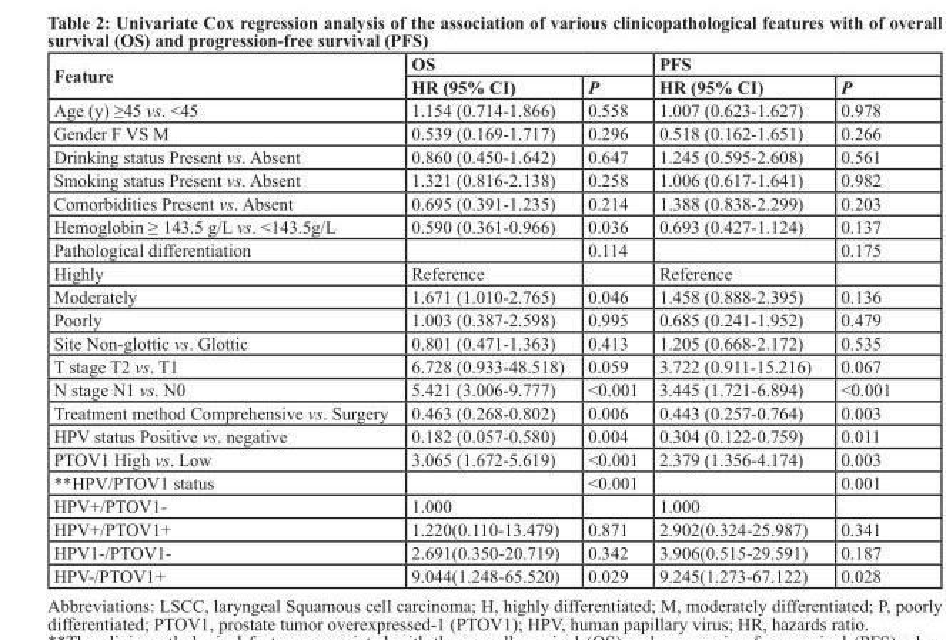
<table><thead><tr><td rowspan="2">Feature</td><td colspan="2">OS</td><td colspan="2">PFS</td></tr><tr><td>HR (95% CI)</td><td>P</td><td>HR (95% CI)</td><td>P</td></tr></thead><tbody><tr><td>Age (y) ≥45 vs. &lt;45</td><td>1.154 (0.714-1.866)</td><td>0.558</td><td>1.007 (0.623-1.627)</td><td>0.978</td></tr><tr><td>Gender F VS M</td><td>0.539 (0.169-1.717)</td><td>0.296</td><td>0.518 (0.162-1.651)</td><td>0.266</td></tr><tr><td>Drinking status Present vs. Absent</td><td>0.860 (0.450-1.642)</td><td>0.647</td><td>1.245 (0.595-2.608)</td><td>0.561</td></tr><tr><td>Smoking status Present vs. Absent</td><td>1.321 (0.816-2.138)</td><td>0.258</td><td>1.006 (0.617-1.641)</td><td>0.982</td></tr><tr><td>Comorbidities Present vs. Absent</td><td>0.695 (0.391-1.235)</td><td>0.214</td><td>1.388 (0.838-2.299)</td><td>0.203</td></tr><tr><td>Hemoglobin ≥ 143.5 g/L vs. &lt;143.5g/L</td><td>0.590 (0.361-0.966)</td><td>0.036</td><td>0.693 (0.427-1.124)</td><td>0.137</td></tr><tr><td>Pathological differentiation</td><td></td><td>0.114</td><td></td><td>0.175</td></tr><tr><td>Highly</td><td>Reference</td><td></td><td>Reference</td><td></td></tr><tr><td>Moderately</td><td>1.671 (1.010-2.765)</td><td>0.046</td><td>1.458 (0.888-2.395)</td><td>0.136</td></tr><tr><td>Poorly</td><td>1.003 (0.387-2.598)</td><td>0.995</td><td>0.685 (0.241-1.952)</td><td>0.479</td></tr><tr><td>Site Non-glottic vs. Glottic</td><td>0.801 (0.471-1.363)</td><td>0.413</td><td>1.205 (0.668-2.172)</td><td>0.535</td></tr><tr><td>T stage T2 vs. T1</td><td>6.728 (0.933-48.518)</td><td>0.059</td><td>3.722 (0.911-15.216)</td><td>0.067</td></tr><tr><td>N stage N1 vs. N0</td><td>5.421 (3.006-9.777)</td><td>&lt;0.001</td><td>3.445 (1.721-6.894)</td><td>&lt;0.001</td></tr><tr><td>Treatment method Comprehensive vs. Surgery</td><td>0.463 (0.268-0.802)</td><td>0.006</td><td>0.443 (0.257-0.764)</td><td>0.003</td></tr><tr><td>HPV status Positive vs. negative</td><td>0.182 (0.057-0.580)</td><td>0.004</td><td>0.304 (0.122-0.759)</td><td>0.011</td></tr><tr><td>PTOV1 High vs. Low</td><td>3.065 (1.672-5.619)</td><td>&lt;0.001</td><td>2.379 (1.356-4.174)</td><td>0.003</td></tr><tr><td>**HPV/PTOV1 status</td><td></td><td>&lt;0.001</td><td></td><td>0.001</td></tr><tr><td>HPV+/PTOV1-</td><td>1.000</td><td></td><td>1.000</td><td></td></tr><tr><td>HPV+/PTOV1+</td><td>1.220(0.110-13.479)</td><td>0.871</td><td>2.902(0.324-25.987)</td><td>0.341</td></tr><tr><td>HPV1-/PTOV1-</td><td>2.691(0.350-20.719)</td><td>0.342</td><td>3.906(0.515-29.591)</td><td>0.187</td></tr><tr><td>HPV-/PTOV1+</td><td>9.044(1.248-65.520)</td><td>0.029</td><td>9.245(1.273-67.122)</td><td>0.028</td></tr></tbody></table>